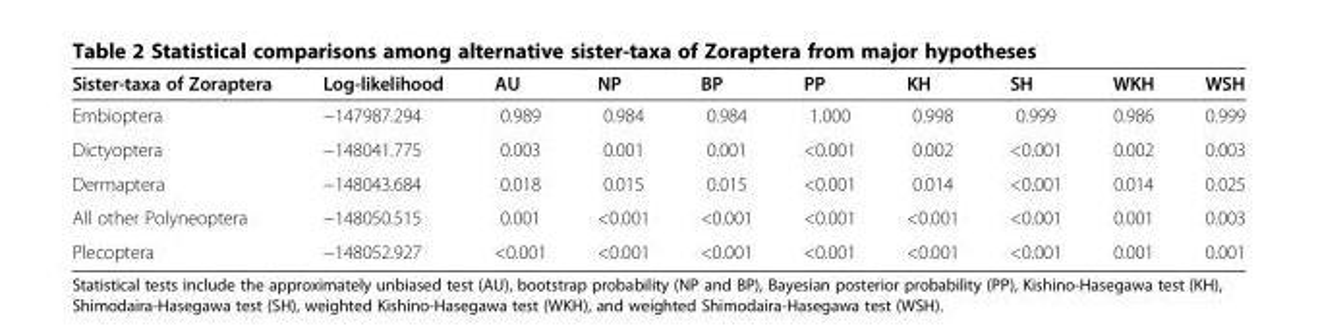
<table><thead><tr><td>Sister-taxa of Zoraptera</td><td>Log-likelihood</td><td>AU</td><td>NP</td><td>BP</td><td>PP</td><td>KH</td><td>SH</td><td>WKH</td><td>WSH</td></tr></thead><tbody><tr><td>Embioptera</td><td>−147987.294</td><td>0.989</td><td>0.984</td><td>0.984</td><td>1.000</td><td>0.998</td><td>0.999</td><td>0.986</td><td>0.999</td></tr><tr><td>Dictyoptera</td><td>−148041.775</td><td>0.003</td><td>0.001</td><td>0.001</td><td>&lt;0.001</td><td>0.002</td><td>&lt;0.001</td><td>0.002</td><td>0.003</td></tr><tr><td>Dermaptera</td><td>−148043.684</td><td>0.018</td><td>0.015</td><td>0.015</td><td>&lt;0.001</td><td>0.014</td><td>&lt;0.001</td><td>0.014</td><td>0.025</td></tr><tr><td>All other Polyneoptera</td><td>−148050.515</td><td>0.001</td><td>&lt;0.001</td><td>&lt;0.001</td><td>&lt;0.001</td><td>&lt;0.001</td><td>&lt;0.001</td><td>0.001</td><td>0.003</td></tr><tr><td>Plecoptera</td><td>−148052.927</td><td>&lt;0.001</td><td>&lt;0.001</td><td>&lt;0.001</td><td>&lt;0.001</td><td>&lt;0.001</td><td>&lt;0.001</td><td>0.001</td><td>0.001</td></tr></tbody></table>